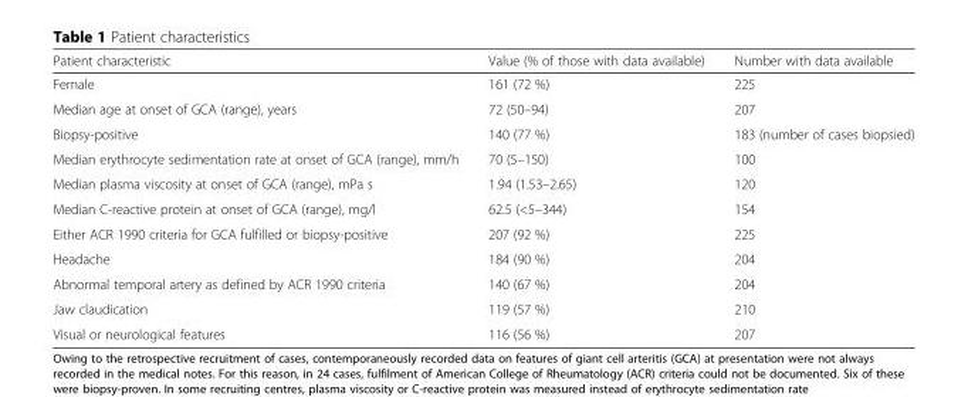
<table><thead><tr><td>Patient characteristic</td><td>Value (% of those with data available)</td><td>Number with data available</td></tr></thead><tbody><tr><td>Female</td><td>161 (72 %)</td><td>225</td></tr><tr><td>Median age at onset of GCA (range), years</td><td>72 (50–94)</td><td>207</td></tr><tr><td>Biopsy-positive</td><td>140 (77 %)</td><td>183 (number of cases biopsied)</td></tr><tr><td>Median erythrocyte sedimentation rate at onset of GCA (range), mm/h</td><td>70 (5–150)</td><td>100</td></tr><tr><td>Median plasma viscosity at onset of GCA (range), mPa s</td><td>1.94 (1.53–2.65)</td><td>120</td></tr><tr><td>Median C-reactive protein at onset of GCA (range), mg/l</td><td>62.5 (&lt;5–344)</td><td>154</td></tr><tr><td>Either ACR 1990 criteria for GCA fulfilled or biopsy-positive</td><td>207 (92 %)</td><td>225</td></tr><tr><td>Headache</td><td>184 (90 %)</td><td>204</td></tr><tr><td>Abnormal temporal artery as defined by ACR 1990 criteria</td><td>140 (67 %)</td><td>204</td></tr><tr><td>Jaw claudication</td><td>119 (57 %)</td><td>210</td></tr><tr><td>Visual or neurological features</td><td>116 (56 %)</td><td>207</td></tr></tbody></table>